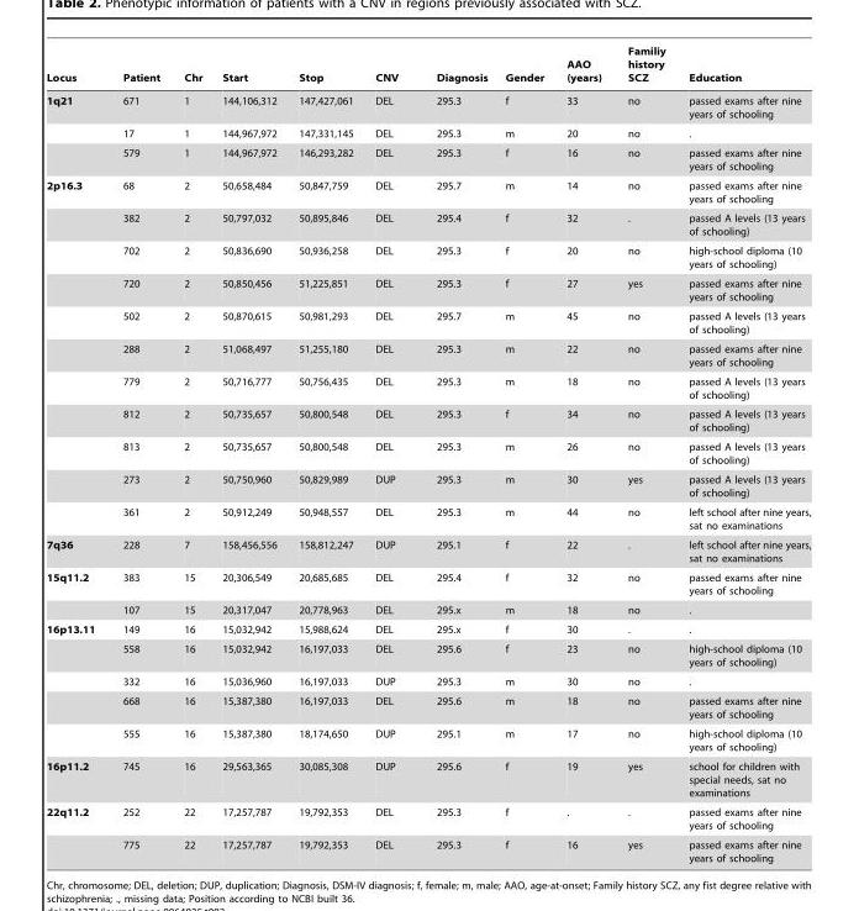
<table><thead><tr><td>Locus</td><td>Patient</td><td>Chr</td><td>Start</td><td>Stop</td><td>CNV</td><td>Diagnosis</td><td>Gender</td><td>AAO (years)</td><td>Familiy history SCZ</td><td>Education</td></tr></thead><tbody><tr><td rowspan="3">1q21</td><td>671</td><td>1</td><td>144,106,312</td><td>147,427,061</td><td>DEL</td><td>295.3</td><td>f</td><td>33</td><td>no</td><td>passed exams after nine years of schooling</td></tr><tr><td>17</td><td>1</td><td>144,967,972</td><td>147,331,145</td><td>DEL</td><td>295.3</td><td>m</td><td>20</td><td>no</td><td>.</td></tr><tr><td>579</td><td>1</td><td>144,967,972</td><td>146,293,282</td><td>DEL</td><td>295.3</td><td>f</td><td>16</td><td>no</td><td>passed exams after nine years of schooling</td></tr><tr><td rowspan="11">2p16.3</td><td>68</td><td>2</td><td>50,658,484</td><td>50,847,759</td><td>DEL</td><td>295.7</td><td>m</td><td>14</td><td>no</td><td>passed exams after nine years of schooling</td></tr><tr><td>382</td><td>2</td><td>50,797,032</td><td>50,895,846</td><td>DEL</td><td>295.4</td><td>f</td><td>32</td><td>.</td><td>passed A levels (13 years of schooling)</td></tr><tr><td>702</td><td>2</td><td>50,836,690</td><td>50,936,258</td><td>DEL</td><td>295.3</td><td>f</td><td>20</td><td>no</td><td>high-school diploma (10 years of schooling)</td></tr><tr><td>720</td><td>2</td><td>50,850,456</td><td>51,225,851</td><td>DEL</td><td>295.3</td><td>f</td><td>27</td><td>yes</td><td>passed exams after nine years of schooling</td></tr><tr><td>502</td><td>2</td><td>50,870,615</td><td>50,981,293</td><td>DEL</td><td>295.7</td><td>m</td><td>45</td><td>no</td><td>passed A levels (13 years of schooling)</td></tr><tr><td>288</td><td>2</td><td>51,068,497</td><td>51,255,180</td><td>DEL</td><td>295.3</td><td>m</td><td>22</td><td>no</td><td>passed exams after nine years of schooling</td></tr><tr><td>779</td><td>2</td><td>50,716,777</td><td>50,756,435</td><td>DEL</td><td>295.3</td><td>m</td><td>18</td><td>no</td><td>passed A levels (13 years of schooling)</td></tr><tr><td>812</td><td>2</td><td>50,735,657</td><td>50,800,548</td><td>DEL</td><td>295.3</td><td>f</td><td>34</td><td>no</td><td>passed A levels (13 years of schooling)</td></tr><tr><td>813</td><td>2</td><td>50,735,657</td><td>50,800,548</td><td>DEL</td><td>295.3</td><td>m</td><td>26</td><td>no</td><td>passed A levels (13 years of schooling)</td></tr><tr><td>273</td><td>2</td><td>50,750,960</td><td>50,829,989</td><td>DUP</td><td>295.3</td><td>m</td><td>30</td><td>yes</td><td>passed A levels (13 years of schooling)</td></tr><tr><td>361</td><td>2</td><td>50,912,249</td><td>50,948,557</td><td>DEL</td><td>295.3</td><td>m</td><td>44</td><td>no</td><td>left school after nine years, sat no examinations</td></tr><tr><td>7q36</td><td>228</td><td>7</td><td>158,456,556</td><td>158,812,247</td><td>DUP</td><td>295.1</td><td>f</td><td>22</td><td>.</td><td>left school after nine years, sat no examinations</td></tr><tr><td rowspan="2">15q11.2</td><td>383</td><td>15</td><td>20,306,549</td><td>20,685,685</td><td>DEL</td><td>295.4</td><td>f</td><td>32</td><td>no</td><td>passed exams after nine years of schooling</td></tr><tr><td>107</td><td>15</td><td>20,317,047</td><td>20,778,963</td><td>DEL</td><td>295.x</td><td>m</td><td>18</td><td>no</td><td>.</td></tr><tr><td rowspan="5">16p13.11</td><td>149</td><td>16</td><td>15,032,942</td><td>15,988,624</td><td>DEL</td><td>295.x</td><td>f</td><td>30</td><td>.</td><td>.</td></tr><tr><td>558</td><td>16</td><td>15,032,942</td><td>16,197,033</td><td>DEL</td><td>295.6</td><td>f</td><td>23</td><td>no</td><td>high-school diploma (10 years of schooling)</td></tr><tr><td>332</td><td>16</td><td>15,036,960</td><td>16,197,033</td><td>DUP</td><td>295.3</td><td>m</td><td>30</td><td>no</td><td>.</td></tr><tr><td>668</td><td>16</td><td>15,387,380</td><td>16,197,033</td><td>DEL</td><td>295.6</td><td>m</td><td>18</td><td>no</td><td>passed exams after nine years of schooling</td></tr><tr><td>555</td><td>16</td><td>15,387,380</td><td>18,174,650</td><td>DUP</td><td>295.1</td><td>m</td><td>17</td><td>no</td><td>high-school diploma (10 years of schooling)</td></tr><tr><td>16p11.2</td><td>745</td><td>16</td><td>29,563,365</td><td>30,085,308</td><td>DUP</td><td>295.6</td><td>f</td><td>19</td><td>yes</td><td>school for children with special needs, sat no examinations</td></tr><tr><td rowspan="2">22q11.2</td><td>252</td><td>22</td><td>17,257,787</td><td>19,792,353</td><td>DEL</td><td>295.3</td><td>f</td><td>.</td><td>.</td><td>passed exams after nine years of schooling</td></tr><tr><td>775</td><td>22</td><td>17,257,787</td><td>19,792,353</td><td>DEL</td><td>295.3</td><td>f</td><td>16</td><td>yes</td><td>passed exams after nine years of schooling</td></tr></tbody></table>